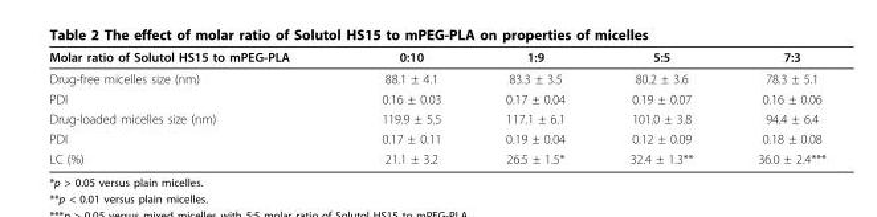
<table><thead><tr><td>Molar ratio of Solutol HS15 to mPEG-PLA</td><td>0:10</td><td>1:9</td><td>5:5</td><td>7:3</td></tr></thead><tbody><tr><td>Drug-free micelles size (nm)</td><td>88.1 ± 4.1</td><td>83.3 ± 3.5</td><td>80.2 ± 3.6</td><td>78.3 ± 5.1</td></tr><tr><td>PDI</td><td>0.16 ± 0.03</td><td>0.17 ± 0.04</td><td>0.19 ± 0.07</td><td>0.16 ± 0.06</td></tr><tr><td>Drug-loaded micelles size (nm)</td><td>119.9 ± 5.5</td><td>117.1 ± 6.1</td><td>101.0 ± 3.8</td><td>94.4 ± 6.4</td></tr><tr><td>PDI</td><td>0.17 ± 0.11</td><td>0.19 ± 0.04</td><td>0.12 ± 0.09</td><td>0.18 ± 0.08</td></tr><tr><td>LC (%)</td><td>21.1 ± 3.2</td><td>26.5 ± 1.5*</td><td>32.4 ± 1.3**</td><td>36.0 ± 2.4***</td></tr></tbody></table>